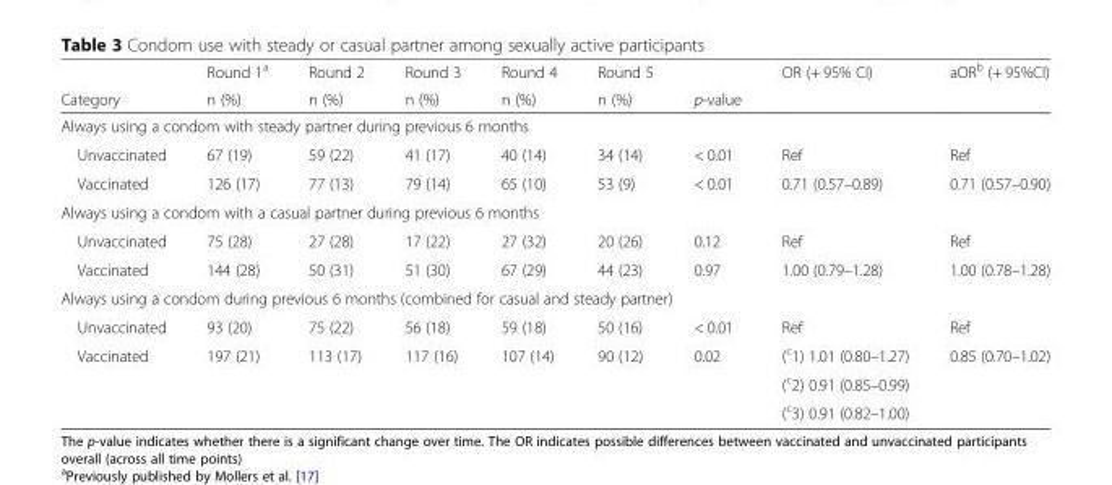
<table><thead><tr><td rowspan="2">Category</td><td rowspan="2">Round 1<sup>a</sup> n (%)</td><td rowspan="2">Round 2 n (%)</td><td rowspan="2">Round 3 n (%)</td><td rowspan="2">Round 4 n (%)</td><td rowspan="2">Round 5 n (%)</td><td rowspan="2">p-value</td><td rowspan="2">OR (+ 95% CI)</td><td rowspan="2">aOR<sup>b</sup> (+ 95%CI)</td></tr><tr></tr></thead><tbody><tr><td colspan="9">Always using a condom with steady partner during previous 6 months</td></tr><tr><td>Unvaccinated</td><td>67 (19)</td><td>59 (22)</td><td>41 (17)</td><td>40 (14)</td><td>34 (14)</td><td>&lt; 0.01</td><td>Ref</td><td>Ref</td></tr><tr><td>Vaccinated</td><td>126 (17)</td><td>77 (13)</td><td>79 (14)</td><td>65 (10)</td><td>53 (9)</td><td>&lt; 0.01</td><td>0.71 (0.57–0.89)</td><td>0.71 (0.57–0.90)</td></tr><tr><td colspan="9">Always using a condom with a casual partner during previous 6 months</td></tr><tr><td>Unvaccinated</td><td>75 (28)</td><td>27 (28)</td><td>17 (22)</td><td>27 (32)</td><td>20 (26)</td><td>0.12</td><td>Ref</td><td>Ref</td></tr><tr><td>Vaccinated</td><td>144 (28)</td><td>50 (31)</td><td>51 (30)</td><td>67 (29)</td><td>44 (23)</td><td>0.97</td><td>1.00 (0.79–1.28)</td><td>1.00 (0.78–1.28)</td></tr><tr><td colspan="9">Always using a condom during previous 6 months (combined for casual and steady partner)</td></tr><tr><td>Unvaccinated</td><td>93 (20)</td><td>75 (22)</td><td>56 (18)</td><td>59 (18)</td><td>50 (16)</td><td>&lt; 0.01</td><td>Ref</td><td>Ref</td></tr><tr><td rowspan="3">Vaccinated</td><td>197 (21)</td><td>113 (17)</td><td>117 (16)</td><td>107 (14)</td><td>90 (12)</td><td>0.02</td><td>(<sup>c</sup>1) 1.01 (0.80–1.27)</td><td>0.85 (0.70–1.02)</td></tr><tr><td></td><td></td><td></td><td></td><td></td><td></td><td>(<sup>c</sup>2) 0.91 (0.85–0.99)</td><td></td></tr><tr><td></td><td></td><td></td><td></td><td></td><td></td><td>(<sup>c</sup>3) 0.91 (0.82–1.00)</td><td></td></tr></tbody></table>